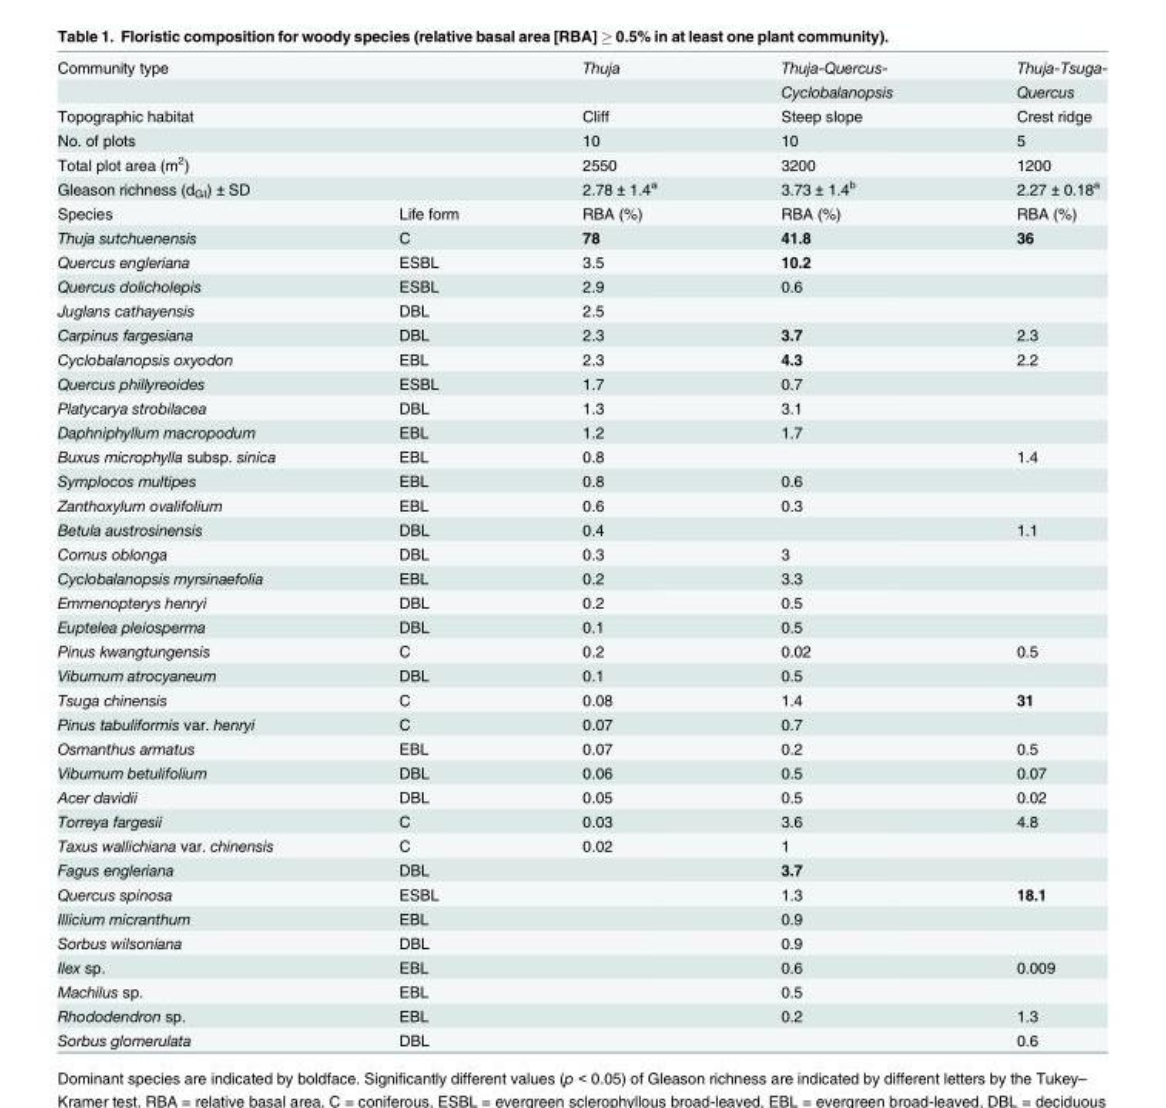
<table><tbody><tr><td rowspan="2">Community type</td><td></td><td>Thuja</td><td>Thuja-Quercus-</td><td>Thuja-Tsuga-</td></tr><tr><td></td><td></td><td>Cyclobalanopsis</td><td>Quercus</td></tr><tr><td>Topographic habitat</td><td></td><td>Cliff</td><td>Steep slope</td><td>Crest ridge</td></tr><tr><td>No. of plots</td><td></td><td>10</td><td>10</td><td>5</td></tr><tr><td>Total plot area (m<sup>2</sup>)</td><td></td><td>2550</td><td>3200</td><td>1200</td></tr><tr><td>Gleason richness (d<sub>GI</sub>) ± SD</td><td></td><td>2.78 ± 1.4<sup>a</sup></td><td>3.73 ± 1.4<sup>b</sup></td><td>2.27 ± 0.18<sup>a</sup></td></tr><tr><td>Species</td><td>Life form</td><td>RBA (%)</td><td>RBA (%)</td><td>RBA (%)</td></tr><tr><td>Thuja sutchuenensis</td><td>C</td><td>78</td><td>41.8</td><td>36</td></tr><tr><td>Quercus engleriana</td><td>ESBL</td><td>3.5</td><td>10.2</td><td></td></tr><tr><td>Quercus dolicholepis</td><td>ESBL</td><td>2.9</td><td>0.6</td><td></td></tr><tr><td>Juglans cathayensis</td><td>DBL</td><td>2.5</td><td></td><td></td></tr><tr><td>Carpinus fargesiana</td><td>DBL</td><td>2.3</td><td>3.7</td><td>2.3</td></tr><tr><td>Cyclobalanopsis oxyodon</td><td>EBL</td><td>2.3</td><td>4.3</td><td>2.2</td></tr><tr><td>Quercus phillyreoides</td><td>ESBL</td><td>1.7</td><td>0.7</td><td></td></tr><tr><td>Platycarya strobilacea</td><td>DBL</td><td>1.3</td><td>3.1</td><td></td></tr><tr><td>Daphniphyllum macropodum</td><td>EBL</td><td>1.2</td><td>1.7</td><td></td></tr><tr><td>Buxus microphylla subsp. sinica</td><td>EBL</td><td>0.8</td><td></td><td>1.4</td></tr><tr><td>Symplocos multipes</td><td>EBL</td><td>0.8</td><td>0.6</td><td></td></tr><tr><td>Zanthoxylum ovalifolium</td><td>EBL</td><td>0.6</td><td>0.3</td><td></td></tr><tr><td>Betula austrosinensis</td><td>DBL</td><td>0.4</td><td></td><td>1.1</td></tr><tr><td>Cornus oblonga</td><td>DBL</td><td>0.3</td><td>3</td><td></td></tr><tr><td>Cyclobalanopsis myrsinaefolia</td><td>EBL</td><td>0.2</td><td>3.3</td><td></td></tr><tr><td>Emmenopterys henryi</td><td>DBL</td><td>0.2</td><td>0.5</td><td></td></tr><tr><td>Euptelea pleiosperma</td><td>DBL</td><td>0.1</td><td>0.5</td><td></td></tr><tr><td>Pinus kwangtungensis</td><td>C</td><td>0.2</td><td>0.02</td><td>0.5</td></tr><tr><td>Viburnum atrocyaneum</td><td>DBL</td><td>0.1</td><td>0.5</td><td></td></tr><tr><td>Tsuga chinensis</td><td>C</td><td>0.08</td><td>1.4</td><td>31</td></tr><tr><td>Pinus tabuliformis var. henryi</td><td>C</td><td>0.07</td><td>0.7</td><td></td></tr><tr><td>Osmanthus armatus</td><td>EBL</td><td>0.07</td><td>0.2</td><td>0.5</td></tr><tr><td>Viburnum betulifolium</td><td>DBL</td><td>0.06</td><td>0.5</td><td>0.07</td></tr><tr><td>Acer davidii</td><td>DBL</td><td>0.05</td><td>0.5</td><td>0.02</td></tr><tr><td>Torreya fargesii</td><td>C</td><td>0.03</td><td>3.6</td><td>4.8</td></tr><tr><td>Taxus wallichiana var. chinensis</td><td>C</td><td>0.02</td><td>1</td><td></td></tr><tr><td>Fagus engleriana</td><td>DBL</td><td></td><td>3.7</td><td></td></tr><tr><td>Quercus spinosa</td><td>ESBL</td><td></td><td>1.3</td><td>18.1</td></tr><tr><td>Illicium micranthum</td><td>EBL</td><td></td><td>0.9</td><td></td></tr><tr><td>Sorbus wilsoniana</td><td>DBL</td><td></td><td>0.9</td><td></td></tr><tr><td>Ilex sp.</td><td>EBL</td><td></td><td>0.6</td><td>0.009</td></tr><tr><td>Machilus sp.</td><td>EBL</td><td></td><td>0.5</td><td></td></tr><tr><td>Rhododendron sp.</td><td>EBL</td><td></td><td>0.2</td><td>1.3</td></tr><tr><td>Sorbus glomerulata</td><td>DBL</td><td></td><td></td><td>0.6</td></tr></tbody></table>